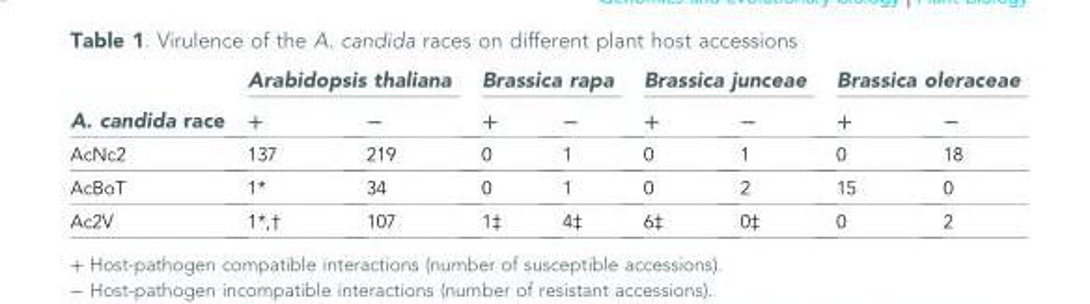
<table><thead><tr><td rowspan="2">A. candida race</td><td colspan="2">Arabidopsis thaliana</td><td colspan="2">Brassica rapa</td><td colspan="2">Brassica junceae</td><td colspan="2">Brassica oleraceae</td></tr><tr><td>+</td><td>−</td><td>+</td><td>−</td><td>+</td><td>−</td><td>+</td><td>−</td></tr></thead><tbody><tr><td>AcNc2</td><td>137</td><td>219</td><td>0</td><td>1</td><td>0</td><td>1</td><td>0</td><td>18</td></tr><tr><td>AcBoT</td><td>1*</td><td>34</td><td>0</td><td>1</td><td>0</td><td>2</td><td>15</td><td>0</td></tr><tr><td>Ac2V</td><td>1*,†</td><td>107</td><td>1‡</td><td>4‡</td><td>6‡</td><td>0‡</td><td>0</td><td>2</td></tr></tbody></table>